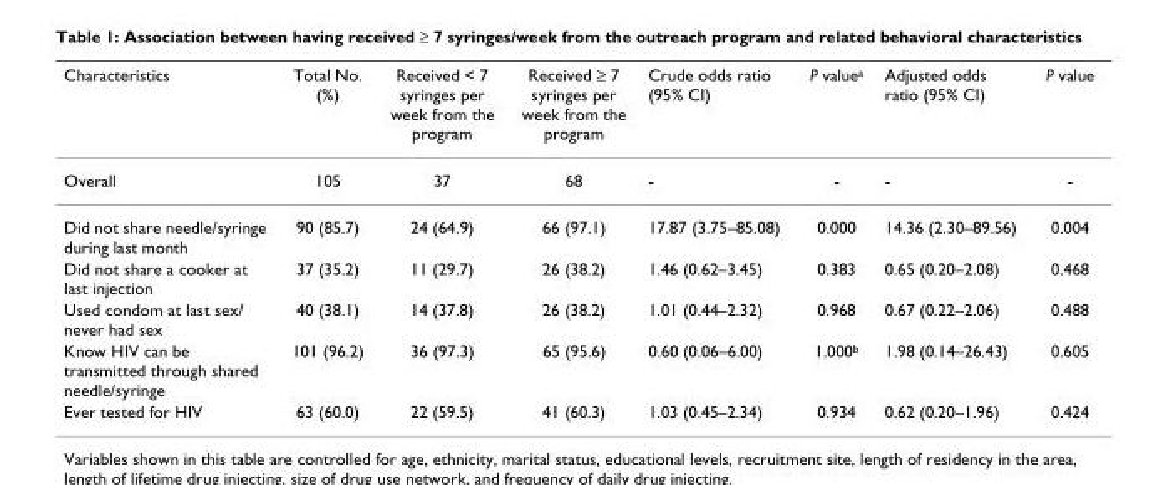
<table><thead><tr><td>Characteristics</td><td>Total No. (%)</td><td>Received &lt; 7 syringes per week from the program</td><td>Received ≥ 7 syringes per week from the program</td><td>Crude odds ratio (95% CI)</td><td>P value<sup>a</sup></td><td>Adjusted odds ratio (95% CI)</td><td>P value</td></tr></thead><tbody><tr><td>Overall</td><td>105</td><td>37</td><td>68</td><td>-</td><td>-</td><td>-</td><td>-</td></tr><tr><td>Did not share needle/syringe during last month</td><td>90 (85.7)</td><td>24 (64.9)</td><td>66 (97.1)</td><td>17.87 (3.75–85.08)</td><td>0.000</td><td>14.36 (2.30–89.56)</td><td>0.004</td></tr><tr><td>Did not share a cooker at last injection</td><td>37 (35.2)</td><td>11 (29.7)</td><td>26 (38.2)</td><td>1.46 (0.62–3.45)</td><td>0.383</td><td>0.65 (0.20–2.08)</td><td>0.468</td></tr><tr><td>Used condom at last sex/ never had sex</td><td>40 (38.1)</td><td>14 (37.8)</td><td>26 (38.2)</td><td>1.01 (0.44–2.32)</td><td>0.968</td><td>0.67 (0.22–2.06)</td><td>0.488</td></tr><tr><td>Know HIV can be transmitted through shared needle/syringe</td><td>101 (96.2)</td><td>36 (97.3)</td><td>65 (95.6)</td><td>0.60 (0.06–6.00)</td><td>1.000<sup>b</sup></td><td>1.98 (0.14–26.43)</td><td>0.605</td></tr><tr><td>Ever tested for HIV</td><td>63 (60.0)</td><td>22 (59.5)</td><td>41 (60.3)</td><td>1.03 (0.45–2.34)</td><td>0.934</td><td>0.62 (0.20–1.96)</td><td>0.424</td></tr></tbody></table>